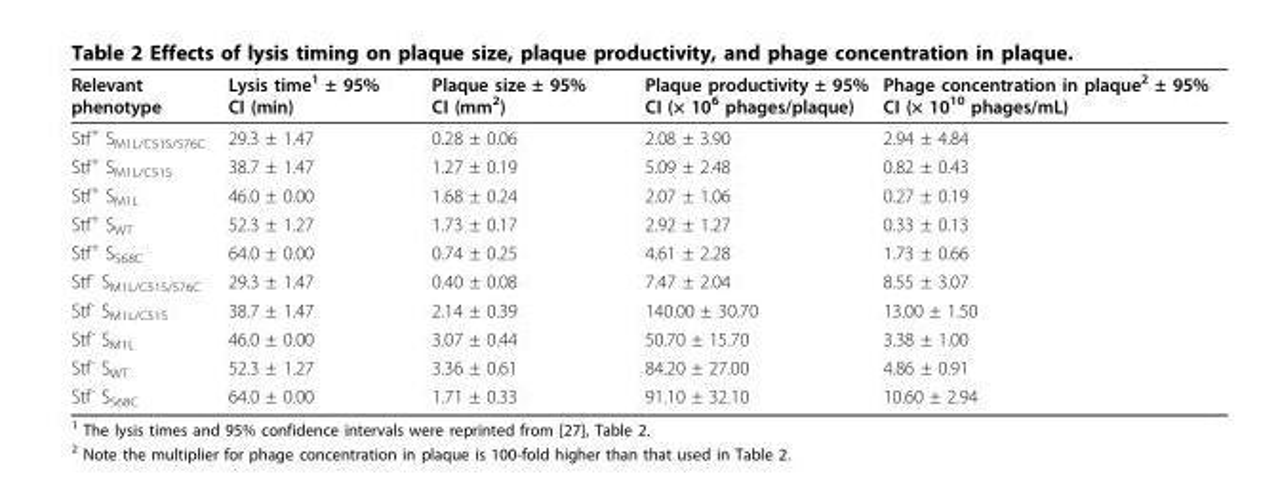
<table><thead><tr><td>Relevant phenotype</td><td>Lysis time<sup>1</sup> ± 95% CI (min)</td><td>Plaque size ± 95% CI (mm<sup>2</sup>)</td><td>Plaque productivity ± 95% CI (× 10<sup>6</sup> phages/plaque)</td><td>Phage concentration in plaque<sup>2</sup> ± 95% CI (× 10<sup>10</sup> phages/mL)</td></tr></thead><tbody><tr><td>Stf<sup>+</sup> S<sub>M1L/C51S/S76C</sub></td><td>29.3 ± 1.47</td><td>0.28 ± 0.06</td><td>2.08 ± 3.90</td><td>2.94 ± 4.84</td></tr><tr><td>Stf<sup>+</sup> S<sub>M1L/C51S</sub></td><td>38.7 ± 1.47</td><td>1.27 ± 0.19</td><td>5.09 ± 2.48</td><td>0.82 ± 0.43</td></tr><tr><td>Stf<sup>+</sup> S<sub>M1L</sub></td><td>46.0 ± 0.00</td><td>1.68 ± 0.24</td><td>2.07 ± 1.06</td><td>0.27 ± 0.19</td></tr><tr><td>Stf<sup>+</sup> S<sub>WT</sub></td><td>52.3 ± 1.27</td><td>1.73 ± 0.17</td><td>2.92 ± 1.27</td><td>0.33 ± 0.13</td></tr><tr><td>Stf<sup>+</sup> S<sub>S68C</sub></td><td>64.0 ± 0.00</td><td>0.74 ± 0.25</td><td>4.61 ± 2.28</td><td>1.73 ± 0.66</td></tr><tr><td>Stf<sup>-</sup> S<sub>M1L/C51S/S76C</sub></td><td>29.3 ± 1.47</td><td>0.40 ± 0.08</td><td>7.47 ± 2.04</td><td>8.55 ± 3.07</td></tr><tr><td>Stf<sup>-</sup> S<sub>M1L/C51S</sub></td><td>38.7 ± 1.47</td><td>2.14 ± 0.39</td><td>140.00 ± 30.70</td><td>13.00 ± 1.50</td></tr><tr><td>Stf<sup>-</sup> S<sub>M1L</sub></td><td>46.0 ± 0.00</td><td>3.07 ± 0.44</td><td>50.70 ± 15.70</td><td>3.38 ± 1.00</td></tr><tr><td>Stf<sup>-</sup> S<sub>WT</sub></td><td>52.3 ± 1.27</td><td>3.36 ± 0.61</td><td>84.20 ± 27.00</td><td>4.86 ± 0.91</td></tr><tr><td>Stf<sup>-</sup> S<sub>S68C</sub></td><td>64.0 ± 0.00</td><td>1.71 ± 0.33</td><td>91.10 ± 32.10</td><td>10.60 ± 2.94</td></tr></tbody></table>